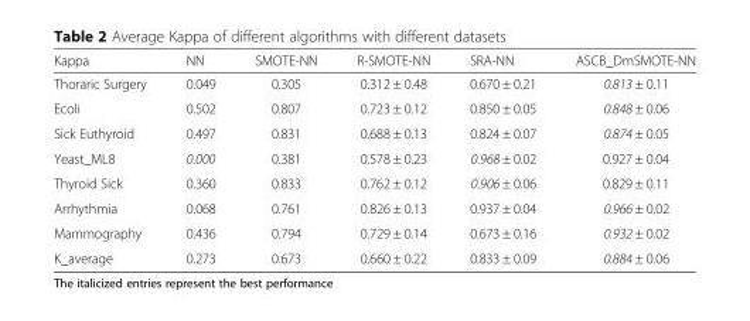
<table><thead><tr><td>Kappa</td><td>NN</td><td>SMOTE-NN</td><td>R-SMOTE-NN</td><td>SRA-NN</td><td>ASCB_DmSMOTE-NN</td></tr></thead><tbody><tr><td>Thoraric Surgery</td><td>0.049</td><td>0.305</td><td>0.312 ± 0.48</td><td>0.670 ± 0.21</td><td>0.813 ± 0.11</td></tr><tr><td>Ecoli</td><td>0.502</td><td>0.807</td><td>0.723 ± 0.12</td><td>0.850 ± 0.05</td><td>0.848 ± 0.06</td></tr><tr><td>Sick Euthyroid</td><td>0.497</td><td>0.831</td><td>0.688 ± 0.13</td><td>0.824 ± 0.07</td><td>0.874 ± 0.05</td></tr><tr><td>Yeast_ML8</td><td>0.000</td><td>0.381</td><td>0.578 ± 0.23</td><td>0.968 ± 0.02</td><td>0.927 ± 0.04</td></tr><tr><td>Thyroid Sick</td><td>0.360</td><td>0.833</td><td>0.762 ± 0.12</td><td>0.906 ± 0.06</td><td>0.829 ± 0.11</td></tr><tr><td>Arrhythmia</td><td>0.068</td><td>0.761</td><td>0.826 ± 0.13</td><td>0.937 ± 0.04</td><td>0.966 ± 0.02</td></tr><tr><td>Mammography</td><td>0.436</td><td>0.794</td><td>0.729 ± 0.14</td><td>0.673 ± 0.16</td><td>0.932 ± 0.02</td></tr><tr><td>K_average</td><td>0.273</td><td>0.673</td><td>0.660 ± 0.22</td><td>0.833 ± 0.09</td><td>0.884 ± 0.06</td></tr></tbody></table>